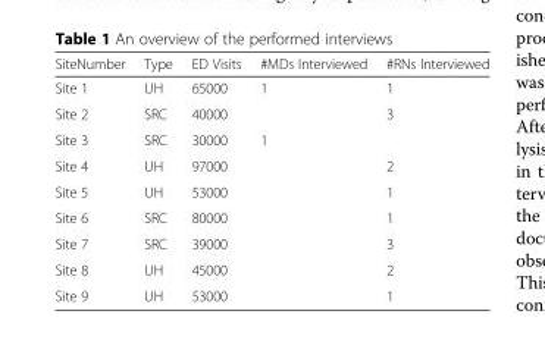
<table><thead><tr><td>SiteNumber</td><td>Type</td><td>ED Visits</td><td>#MDs Interviewed</td><td>#RNs Interviewed</td></tr></thead><tbody><tr><td>Site 1</td><td>UH</td><td>65000</td><td>1</td><td>1</td></tr><tr><td>Site 2</td><td>SRC</td><td>40000</td><td></td><td>3</td></tr><tr><td>Site 3</td><td>SRC</td><td>30000</td><td>1</td><td></td></tr><tr><td>Site 4</td><td>UH</td><td>97000</td><td></td><td>2</td></tr><tr><td>Site 5</td><td>UH</td><td>53000</td><td></td><td>1</td></tr><tr><td>Site 6</td><td>SRC</td><td>80000</td><td></td><td>1</td></tr><tr><td>Site 7</td><td>SRC</td><td>39000</td><td></td><td>3</td></tr><tr><td>Site 8</td><td>UH</td><td>45000</td><td></td><td>2</td></tr><tr><td>Site 9</td><td>UH</td><td>53000</td><td></td><td>1</td></tr></tbody></table>